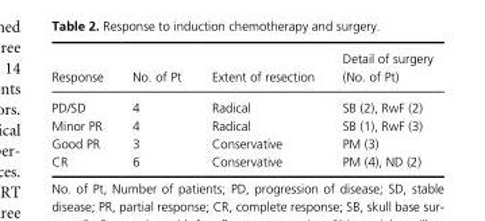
<table><thead><tr><td>Response</td><td>No. of Pt</td><td>Extent of resection</td><td>Detail of surgery (No. of Pt)</td></tr></thead><tbody><tr><td>PD/SD</td><td>4</td><td>Radical</td><td>SB (2), RwF (2)</td></tr><tr><td>Minor PR</td><td>4</td><td>Radical</td><td>SB (1), RwF (3)</td></tr><tr><td>Good PR</td><td>3</td><td>Conservative</td><td>PM (3)</td></tr><tr><td>CR</td><td>6</td><td>Conservative</td><td>PM (4), ND (2)</td></tr></tbody></table>